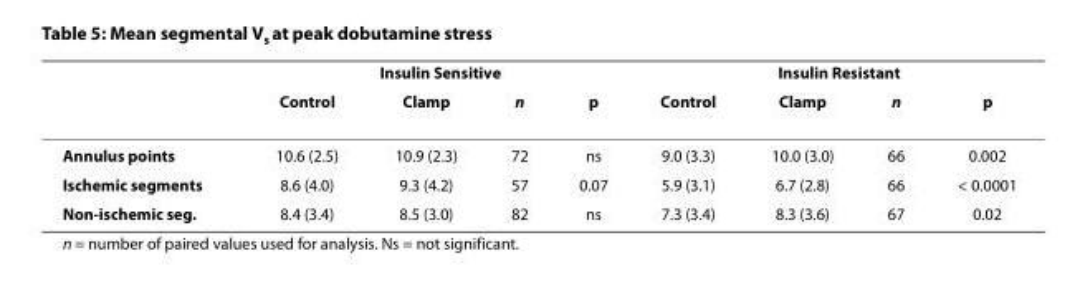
<table><thead><tr><td rowspan="2"></td><td colspan="4">Insulin Sensitive</td><td colspan="4">Insulin Resistant</td></tr><tr><td>Control</td><td>Clamp</td><td>n</td><td>p</td><td>Control</td><td>Clamp</td><td>n</td><td>p</td></tr></thead><tbody><tr><td>Annulus points</td><td>10.6 (2.5)</td><td>10.9 (2.3)</td><td>72</td><td>ns</td><td>9.0 (3.3)</td><td>10.0 (3.0)</td><td>66</td><td>0.002</td></tr><tr><td>Ischemic segments</td><td>8.6 (4.0)</td><td>9.3 (4.2)</td><td>57</td><td>0.07</td><td>5.9 (3.1)</td><td>6.7 (2.8)</td><td>66</td><td>&lt; 0.0001</td></tr><tr><td>Non-ischemic seg.</td><td>8.4 (3.4)</td><td>8.5 (3.0)</td><td>82</td><td>ns</td><td>7.3 (3.4)</td><td>8.3 (3.6)</td><td>67</td><td>0.02</td></tr></tbody></table>